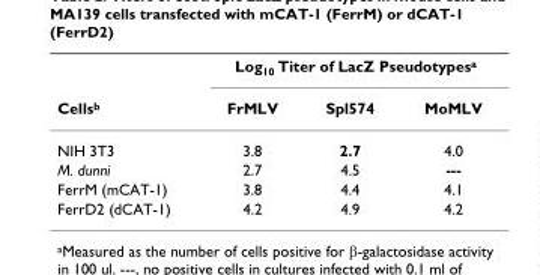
<table><thead><tr><td rowspan="2">Cells<sup>b</sup></td><td colspan="3">Log<sub>10</sub> Titer of LacZ Pseudotypes<sup>a</sup></td></tr><tr><td>FrMLV</td><td>Spl574</td><td>MoMLV</td></tr></thead><tbody><tr><td>NIH 3T3</td><td>3.8</td><td>2.7</td><td>4.0</td></tr><tr><td>M. dunni</td><td>2.7</td><td>4.5</td><td>---</td></tr><tr><td>FerrM (mCAT-1)</td><td>3.8</td><td>4.4</td><td>4.1</td></tr><tr><td>FerrD2 (dCAT-1)</td><td>4.2</td><td>4.9</td><td>4.2</td></tr></tbody></table>